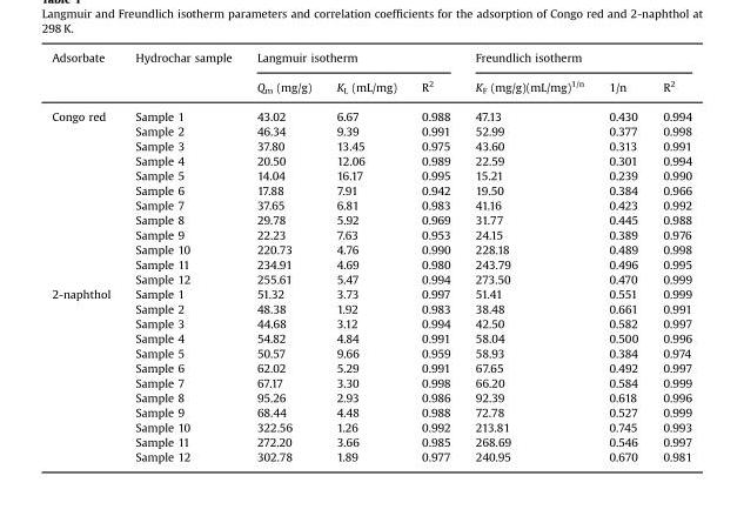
<table><thead><tr><td rowspan="2">Adsorbate</td><td rowspan="2">Hydrochar sample</td><td colspan="3">Langmuir isotherm</td><td colspan="3">Freundlich isotherm</td></tr><tr><td>Q<sub>m</sub> (mg/g)</td><td>K<sub>L</sub> (mL/mg)</td><td>R<sup>2</sup></td><td>K<sub>F</sub> (mg/g)(mL/mg)<sup>1/n</sup></td><td>1/n</td><td>R<sup>2</sup></td></tr></thead><tbody><tr><td rowspan="12">Congo red</td><td>Sample 1</td><td>43.02</td><td>6.67</td><td>0.988</td><td>47.13</td><td>0.430</td><td>0.994</td></tr><tr><td>Sample 2</td><td>46.34</td><td>9.39</td><td>0.991</td><td>52.99</td><td>0.377</td><td>0.998</td></tr><tr><td>Sample 3</td><td>37.80</td><td>13.45</td><td>0.975</td><td>43.60</td><td>0.313</td><td>0.991</td></tr><tr><td>Sample 4</td><td>20.50</td><td>12.06</td><td>0.989</td><td>22.59</td><td>0.301</td><td>0.994</td></tr><tr><td>Sample 5</td><td>14.04</td><td>16.17</td><td>0.995</td><td>15.21</td><td>0.239</td><td>0.990</td></tr><tr><td>Sample 6</td><td>17.88</td><td>7.91</td><td>0.942</td><td>19.50</td><td>0.384</td><td>0.966</td></tr><tr><td>Sample 7</td><td>37.65</td><td>6.81</td><td>0.983</td><td>41.16</td><td>0.423</td><td>0.992</td></tr><tr><td>Sample 8</td><td>29.78</td><td>5.92</td><td>0.969</td><td>31.77</td><td>0.445</td><td>0.988</td></tr><tr><td>Sample 9</td><td>22.23</td><td>7.63</td><td>0.953</td><td>24.15</td><td>0.389</td><td>0.976</td></tr><tr><td>Sample 10</td><td>220.73</td><td>4.76</td><td>0.990</td><td>228.18</td><td>0.489</td><td>0.998</td></tr><tr><td>Sample 11</td><td>234.91</td><td>4.69</td><td>0.980</td><td>243.79</td><td>0.496</td><td>0.995</td></tr><tr><td>Sample 12</td><td>255.61</td><td>5.47</td><td>0.994</td><td>273.50</td><td>0.470</td><td>0.999</td></tr><tr><td rowspan="12">2-naphthol</td><td>Sample 1</td><td>51.32</td><td>3.73</td><td>0.997</td><td>51.41</td><td>0.551</td><td>0.999</td></tr><tr><td>Sample 2</td><td>48.38</td><td>1.92</td><td>0.983</td><td>38.48</td><td>0.661</td><td>0.991</td></tr><tr><td>Sample 3</td><td>44.68</td><td>3.12</td><td>0.994</td><td>42.50</td><td>0.582</td><td>0.997</td></tr><tr><td>Sample 4</td><td>54.82</td><td>4.84</td><td>0.991</td><td>58.04</td><td>0.500</td><td>0.996</td></tr><tr><td>Sample 5</td><td>50.57</td><td>9.66</td><td>0.959</td><td>58.93</td><td>0.384</td><td>0.974</td></tr><tr><td>Sample 6</td><td>62.02</td><td>5.29</td><td>0.991</td><td>67.65</td><td>0.492</td><td>0.997</td></tr><tr><td>Sample 7</td><td>67.17</td><td>3.30</td><td>0.998</td><td>66.20</td><td>0.584</td><td>0.999</td></tr><tr><td>Sample 8</td><td>95.26</td><td>2.93</td><td>0.986</td><td>92.39</td><td>0.618</td><td>0.996</td></tr><tr><td>Sample 9</td><td>68.44</td><td>4.48</td><td>0.988</td><td>72.78</td><td>0.527</td><td>0.999</td></tr><tr><td>Sample 10</td><td>322.56</td><td>1.26</td><td>0.992</td><td>213.81</td><td>0.745</td><td>0.993</td></tr><tr><td>Sample 11</td><td>272.20</td><td>3.66</td><td>0.985</td><td>268.69</td><td>0.546</td><td>0.997</td></tr><tr><td>Sample 12</td><td>302.78</td><td>1.89</td><td>0.977</td><td>240.95</td><td>0.670</td><td>0.981</td></tr></tbody></table>